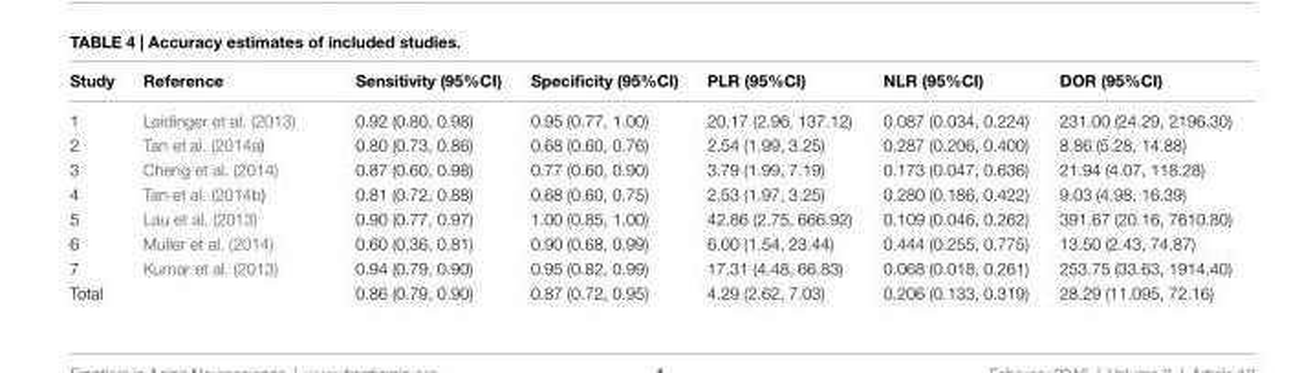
<table><thead><tr><td>Study</td><td>Reference</td><td>Sensitivity (95%Ci)</td><td>Specificity (95%Ci)</td><td>PLR (95%Ci)</td><td>NLR (95%Ci)</td><td>DOR (95%Ci)</td></tr></thead><tbody><tr><td>1</td><td>Leidinger et al. (2013)</td><td>0.92 (0.80, 0.98)</td><td>0.95 (0.77, 1.00)</td><td>20.17 (2.96, 137.12)</td><td>0.087 (0.034, 0.224)</td><td>231.00 (24.29, 2196.30)</td></tr><tr><td>2</td><td>Tan et al. (2014a)</td><td>0.80 (0.73, 0.86)</td><td>0.68 (0.60, 0.76)</td><td>2.54 (1.99, 3.25)</td><td>0.287 (0.206, 0.400)</td><td>8.86 (5.28, 14.88)</td></tr><tr><td>3</td><td>Cheng et al. (2014)</td><td>0.87 (0.60, 0.98)</td><td>0.77 (0.60, 0.90)</td><td>3.79 (1.99, 7.19)</td><td>0.173 (0.047, 0.636)</td><td>21.94 (4.07, 118.28)</td></tr><tr><td>4</td><td>Tan et al. (2014b)</td><td>0.81 (0.72, 0.88)</td><td>0.68 (0.60, 0.75)</td><td>2.53 (1.97, 3.25)</td><td>0.280 (0.186, 0.422)</td><td>9.03 (4.98, 16.39)</td></tr><tr><td>5</td><td>Lau et al. (2013)</td><td>0.90 (0.77, 0.97)</td><td>1.00 (0.85, 1.00)</td><td>42.86 (2.75, 666.92)</td><td>0.109 (0.046, 0.262)</td><td>391.67 (20.16, 7610.80)</td></tr><tr><td>6</td><td>Muller et al. (2014)</td><td>0.60 (0.36, 0.81)</td><td>0.90 (0.68, 0.99)</td><td>6.00 (1.54, 23.44)</td><td>0.444 (0.255, 0.775)</td><td>13.50 (2.43, 74.87)</td></tr><tr><td>7</td><td>Kumar et al. (2013)</td><td>0.94 (0.79, 0.90)</td><td>0.95 (0.82, 0.99)</td><td>17.31 (4.48, 66.83)</td><td>0.068 (0.018, 0.261)</td><td>253.75 (33.63, 1914.40)</td></tr><tr><td>Total</td><td></td><td>0.86 (0.79, 0.90)</td><td>0.87 (0.72, 0.95)</td><td>4.29 (2.62, 7.03)</td><td>0.206 (0.133, 0.319)</td><td>28.29 (11.095, 72.16)</td></tr></tbody></table>